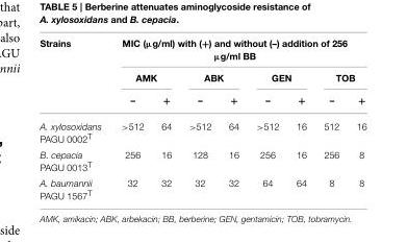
<table><thead><tr><td rowspan="3">Strains</td><td colspan="8">MIC (µg/ml) with (+) and without (–) addition of 256 µg/ml BB</td></tr><tr><td colspan="2">AMK</td><td colspan="2">ABK</td><td colspan="2">GEN</td><td colspan="2">TOB</td></tr><tr><td>–</td><td>+</td><td>–</td><td>+</td><td>–</td><td>+</td><td>–</td><td>+</td></tr></thead><tbody><tr><td>A. xylosoxidans PAGU 0002<sup>T</sup></td><td>&gt;512</td><td>64</td><td>&gt;512</td><td>64</td><td>&gt;512</td><td>16</td><td>512</td><td>16</td></tr><tr><td>B. cepacia PAGU 0013<sup>T</sup></td><td>256</td><td>16</td><td>128</td><td>16</td><td>256</td><td>16</td><td>256</td><td>8</td></tr><tr><td>A. baumannii PAGU 1567<sup>T</sup></td><td>32</td><td>32</td><td>32</td><td>32</td><td>64</td><td>64</td><td>8</td><td>8</td></tr></tbody></table>